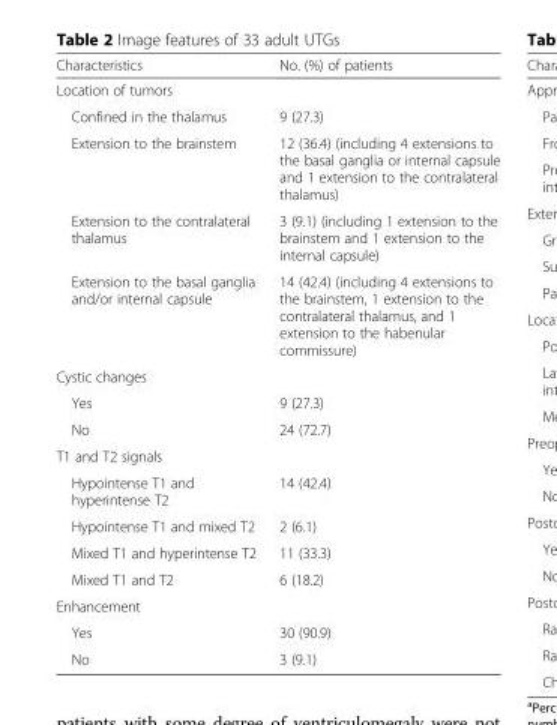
<table><thead><tr><td>Characteristics</td><td>No. (%) of patients</td></tr></thead><tbody><tr><td colspan="2">Location of tumors</td></tr><tr><td>Confined in the thalamus</td><td>9 (27.3)</td></tr><tr><td>Extension to the brainstem</td><td>12 (36.4) (including 4 extensions to the basal ganglia or internal capsule and 1 extension to the contralateral thalamus)</td></tr><tr><td>Extension to the contralateral thalamus</td><td>3 (9.1) (including 1 extension to the brainstem and 1 extension to the internal capsule)</td></tr><tr><td>Extension to the basal ganglia and/or internal capsule</td><td>14 (42.4) (including 4 extensions to the brainstem, 1 extension to the contralateral thalamus, and 1 extension to the habenular commissure)</td></tr><tr><td colspan="2">Cystic changes</td></tr><tr><td>Yes</td><td>9 (27.3)</td></tr><tr><td>No</td><td>24 (72.7)</td></tr><tr><td colspan="2">T1 and T2 signals</td></tr><tr><td>Hypointense T1 and hyperintense T2</td><td>14 (42.4)</td></tr><tr><td>Hypointense T1 and mixed T2</td><td>2 (6.1)</td></tr><tr><td>Mixed T1 and hyperintense T2</td><td>11 (33.3)</td></tr><tr><td>Mixed T1 and T2</td><td>6 (18.2)</td></tr><tr><td colspan="2">Enhancement</td></tr><tr><td>Yes</td><td>30 (90.9)</td></tr><tr><td>No</td><td>3 (9.1)</td></tr></tbody></table>